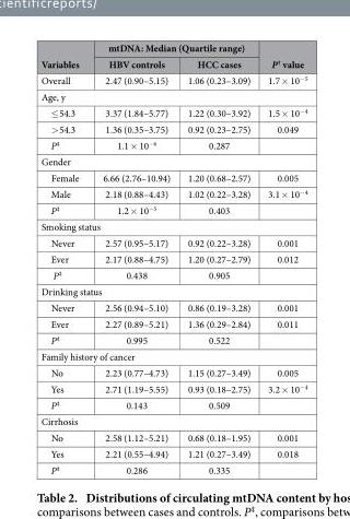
<table><thead><tr><td rowspan="2">Variables</td><td colspan="2">mtDNA: Median (Quartile range)</td><td rowspan="2">P<sup>†</sup> value</td></tr><tr><td>HBV controls</td><td>HCC cases</td></tr></thead><tbody><tr><td>Overall</td><td>2.47 (0.90–5.15)</td><td>1.06 (0.23–3.09)</td><td>1.7 × 10<sup>−5</sup></td></tr><tr><td colspan="4">Age, y</td></tr><tr><td>≤ 54.3</td><td>3.37 (1.84–5.77)</td><td>1.22 (0.30–3.92)</td><td>1.5 × 10<sup>−4</sup></td></tr><tr><td>&gt; 54.3</td><td>1.36 (0.35–3.75)</td><td>0.92 (0.23–2.75)</td><td>0.049</td></tr><tr><td>P<sup>‡</sup></td><td>1.1 × 10<sup>−6</sup></td><td>0.287</td><td></td></tr><tr><td colspan="4">Gender</td></tr><tr><td>Female</td><td>6.66 (2.76–10.94)</td><td>1.20 (0.68–2.57)</td><td>0.005</td></tr><tr><td>Male</td><td>2.18 (0.88–4.43)</td><td>1.02 (0.22–3.28)</td><td>3.1 × 10<sup>−4</sup></td></tr><tr><td>P<sup>‡</sup></td><td>1.2 × 10<sup>−5</sup></td><td>0.403</td><td></td></tr><tr><td colspan="4">Smoking status</td></tr><tr><td>Never</td><td>2.57 (0.95–5.17)</td><td>0.92 (0.22–3.28)</td><td>0.001</td></tr><tr><td>Ever</td><td>2.17 (0.88–4.75)</td><td>1.20 (0.27–2.79)</td><td>0.012</td></tr><tr><td>P<sup>‡</sup></td><td>0.438</td><td>0.905</td><td></td></tr><tr><td colspan="4">Drinking status</td></tr><tr><td>Never</td><td>2.56 (0.94–5.10)</td><td>0.86 (0.19–3.28)</td><td>0.001</td></tr><tr><td>Ever</td><td>2.27 (0.89–5.21)</td><td>1.36 (0.29–2.84)</td><td>0.011</td></tr><tr><td>P<sup>‡</sup></td><td>0.995</td><td>0.522</td><td></td></tr><tr><td colspan="4">Family history of cancer</td></tr><tr><td>No</td><td>2.23 (0.77–4.73)</td><td>1.15 (0.27–3.49)</td><td>0.005</td></tr><tr><td>Yes</td><td>2.71 (1.19–5.55)</td><td>0.93 (0.18–2.75)</td><td>3.2 × 10<sup>−4</sup></td></tr><tr><td>P<sup>‡</sup></td><td>0.143</td><td>0.509</td><td></td></tr><tr><td colspan="4">Cirrhosis</td></tr><tr><td>No</td><td>2.58 (1.12–5.21)</td><td>0.68 (0.18–1.95)</td><td>0.001</td></tr><tr><td>Yes</td><td>2.21 (0.55–4.94)</td><td>1.21 (0.27–3.49)</td><td>0.018</td></tr><tr><td>P<sup>‡</sup></td><td>0.286</td><td>0.335</td><td></td></tr></tbody></table>